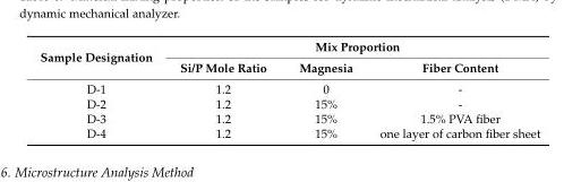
<table><thead><tr><td rowspan="2">Sample Designation</td><td colspan="3">Mix Proportion</td></tr><tr><td>Si/P Mole Ratio</td><td>Magnesia</td><td>Fiber Content</td></tr></thead><tbody><tr><td>D-1</td><td>1.2</td><td>0</td><td>-</td></tr><tr><td>D-2</td><td>1.2</td><td>15%</td><td>-</td></tr><tr><td>D-3</td><td>1.2</td><td>15%</td><td>1.5% PVA fiber</td></tr><tr><td>D-4</td><td>1.2</td><td>15%</td><td>one layer of carbon fiber sheet</td></tr></tbody></table>